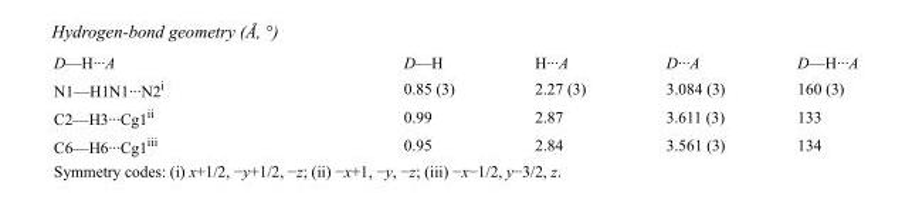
<table><tbody><tr><td>D—H···A</td><td>D—H</td><td>H···A</td><td>D···A</td><td>D—H···A</td></tr><tr><td>N1—H1N1···N2<sup>i</sup></td><td>0.85 (3)</td><td>2.27 (3)</td><td>3.084 (3)</td><td>160 (3)</td></tr><tr><td>C2—H3···Cg1<sup>ii</sup></td><td>0.99</td><td>2.87</td><td>3.611 (3)</td><td>133</td></tr><tr><td>C6—H6···Cg1<sup>iii</sup></td><td>0.95</td><td>2.84</td><td>3.561 (3)</td><td>134</td></tr></tbody></table>